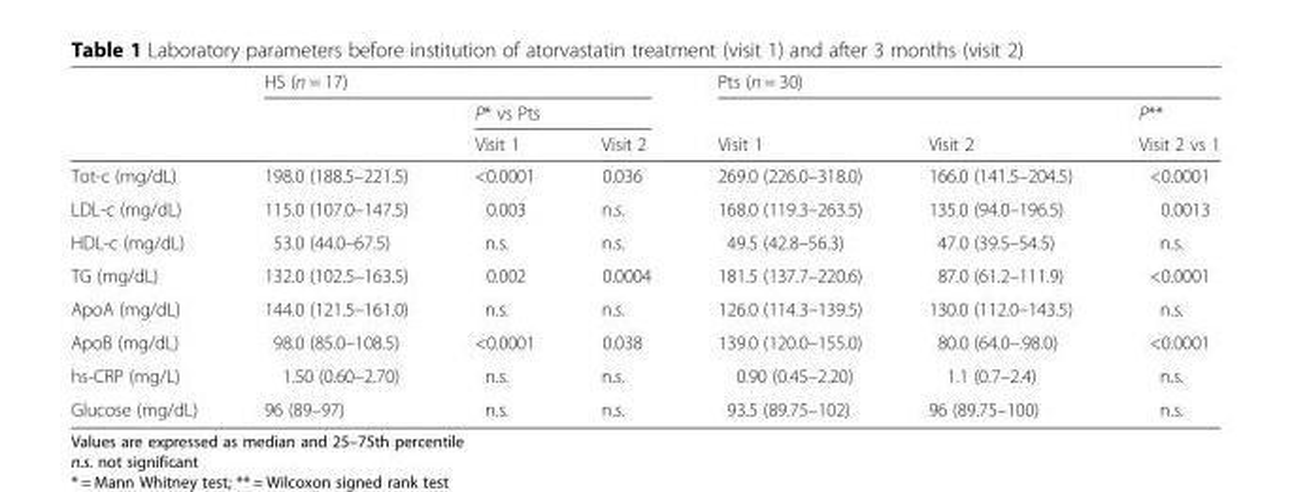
<table><thead><tr><td rowspan="3"></td><td colspan="3">HS (n = 17)</td><td colspan="3">Pts (n = 30)</td></tr><tr><td rowspan="2"></td><td colspan="2">P* vs Pts</td><td rowspan="2">Visit 1</td><td rowspan="2">Visit 2</td><td rowspan="2">P** Visit 2 vs 1</td></tr><tr><td>Visit 1</td><td>Visit 2</td></tr></thead><tbody><tr><td>Tot-c (mg/dL)</td><td>198.0 (188.5–221.5)</td><td>&lt;0.0001</td><td>0.036</td><td>269.0 (226.0–318.0)</td><td>166.0 (141.5–204.5)</td><td>&lt;0.0001</td></tr><tr><td>LDL-c (mg/dL)</td><td>115.0 (107.0–147.5)</td><td>0.003</td><td>n.s.</td><td>168.0 (119.3–263.5)</td><td>135.0 (94.0–196.5)</td><td>0.0013</td></tr><tr><td>HDL-c (mg/dL)</td><td>53.0 (44.0–67.5)</td><td>n.s.</td><td>n.s.</td><td>49.5 (42.8–56.3)</td><td>47.0 (39.5–54.5)</td><td>n.s.</td></tr><tr><td>TG (mg/dL)</td><td>132.0 (102.5–163.5)</td><td>0.002</td><td>0.0004</td><td>181.5 (137.7–220.6)</td><td>87.0 (61.2–111.9)</td><td>&lt;0.0001</td></tr><tr><td>ApoA (mg/dL)</td><td>144.0 (121.5–161.0)</td><td>n.s.</td><td>n.s.</td><td>126.0 (114.3–139.5)</td><td>130.0 (112.0–143.5)</td><td>n.s.</td></tr><tr><td>ApoB (mg/dL)</td><td>98.0 (85.0–108.5)</td><td>&lt;0.0001</td><td>0.038</td><td>139.0 (120.0–155.0)</td><td>80.0 (64.0–.98.0)</td><td>&lt;0.0001</td></tr><tr><td>hs-CRP (mg/L)</td><td>1.50 (0.60–2.70)</td><td>n.s.</td><td>n.s.</td><td>0.90 (0.45–2.20)</td><td>1.1 (0.7–2.4)</td><td>n.s.</td></tr><tr><td>Glucose (mg/dL)</td><td>96 (89–97)</td><td>n.s.</td><td>n.s.</td><td>93.5 (89.75–102)</td><td>96 (89.75–100)</td><td>n.s.</td></tr></tbody></table>